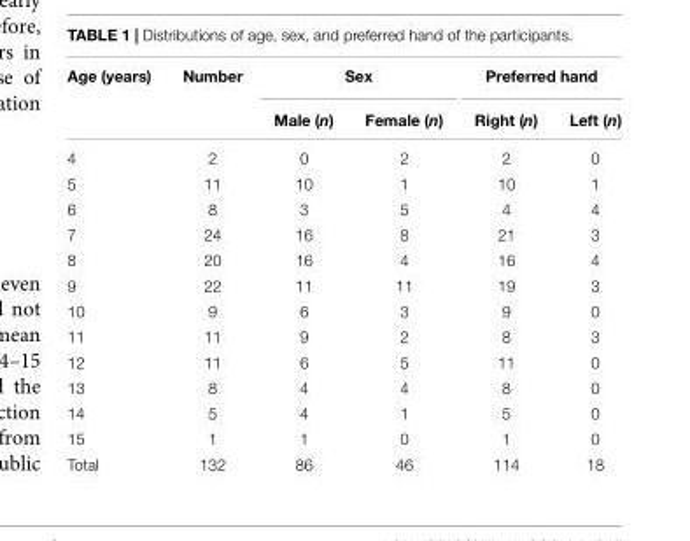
<table><thead><tr><td rowspan="2">Age (years)</td><td rowspan="2">Number</td><td colspan="2">Sex</td><td colspan="2">Preferred hand</td></tr><tr><td>Male (n)</td><td>Female (n)</td><td>Right (n)</td><td>Left (n)</td></tr></thead><tbody><tr><td>4</td><td>2</td><td>0</td><td>2</td><td>2</td><td>0</td></tr><tr><td>5</td><td>11</td><td>10</td><td>1</td><td>10</td><td>1</td></tr><tr><td>6</td><td>8</td><td>3</td><td>5</td><td>4</td><td>4</td></tr><tr><td>7</td><td>24</td><td>16</td><td>8</td><td>21</td><td>3</td></tr><tr><td>8</td><td>20</td><td>16</td><td>4</td><td>16</td><td>4</td></tr><tr><td>9</td><td>22</td><td>11</td><td>11</td><td>19</td><td>3</td></tr><tr><td>10</td><td>9</td><td>6</td><td>3</td><td>9</td><td>0</td></tr><tr><td>11</td><td>11</td><td>9</td><td>2</td><td>8</td><td>3</td></tr><tr><td>12</td><td>11</td><td>6</td><td>5</td><td>11</td><td>0</td></tr><tr><td>13</td><td>8</td><td>4</td><td>4</td><td>8</td><td>0</td></tr><tr><td>14</td><td>5</td><td>4</td><td>1</td><td>5</td><td>0</td></tr><tr><td>15</td><td>1</td><td>1</td><td>0</td><td>1</td><td>0</td></tr><tr><td>Total</td><td>132</td><td>86</td><td>46</td><td>114</td><td>18</td></tr></tbody></table>